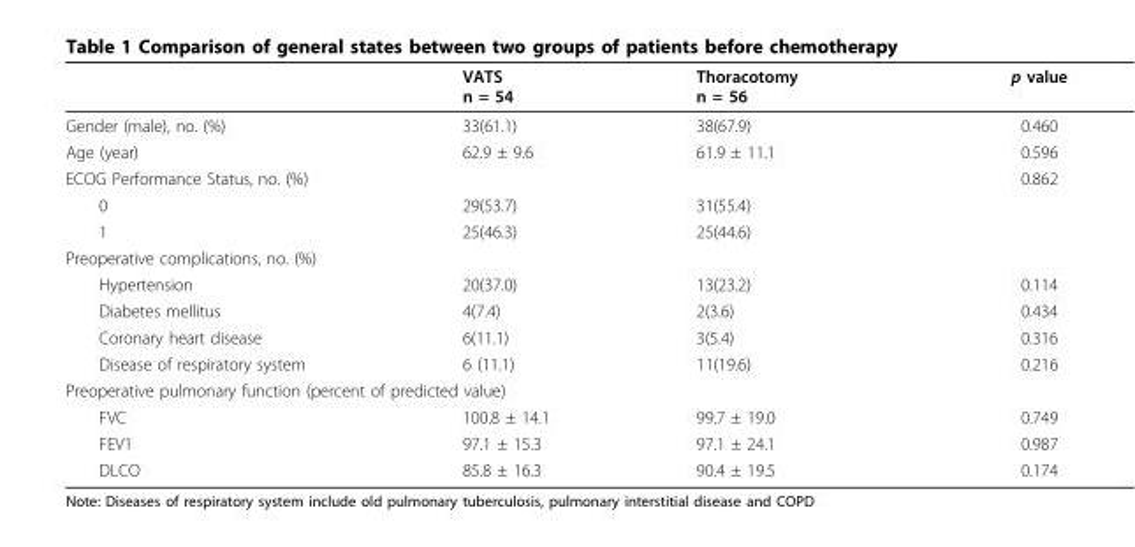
<table><thead><tr><td></td><td>VATS n = 54</td><td>Thoracotomy n = 56</td><td>p value</td></tr></thead><tbody><tr><td>Gender (male), no. (%)</td><td>33(61.1)</td><td>38(67.9)</td><td>0.460</td></tr><tr><td>Age (year)</td><td>62.9 ± 9.6</td><td>61.9 ± 11.1</td><td>0.596</td></tr><tr><td>ECOG Performance Status, no. (%)</td><td></td><td></td><td>0.862</td></tr><tr><td>0</td><td>29(53.7)</td><td>31(55.4)</td><td></td></tr><tr><td>1</td><td>25(46.3)</td><td>25(44.6)</td><td></td></tr><tr><td colspan="4">Preoperative complications, no. (%)</td></tr><tr><td>Hypertension</td><td>20(37.0)</td><td>13(23.2)</td><td>0.114</td></tr><tr><td>Diabetes mellitus</td><td>4(7.4)</td><td>2(3.6)</td><td>0.434</td></tr><tr><td>Coronary heart disease</td><td>6(11.1)</td><td>3(5.4)</td><td>0.316</td></tr><tr><td>Disease of respiratory system</td><td>6 (11.1)</td><td>11(19.6)</td><td>0.216</td></tr><tr><td colspan="4">Preoperative pulmonary function (percent of predicted value)</td></tr><tr><td>FVC</td><td>100.8 ± 14.1</td><td>99.7 ± 19.0</td><td>0.749</td></tr><tr><td>FEV1</td><td>97.1 ± 15.3</td><td>97.1 ± 24.1</td><td>0.987</td></tr><tr><td>DLCO</td><td>85.8 ± 16.3</td><td>90.4 ± 19.5</td><td>0.174</td></tr></tbody></table>